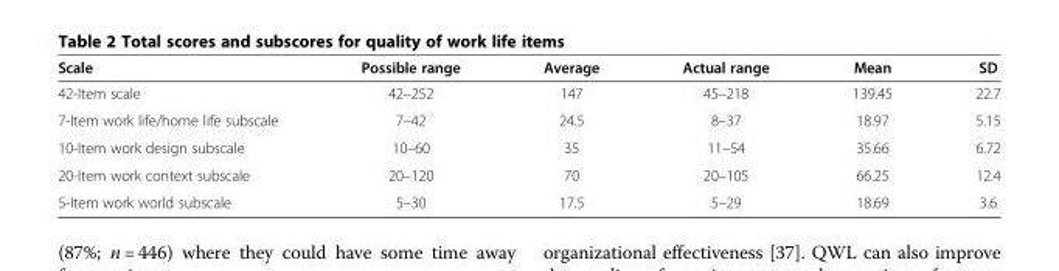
<table><thead><tr><td>Scale</td><td>Possible range</td><td>Average</td><td>Actual range</td><td>Mean</td><td>SD</td></tr></thead><tbody><tr><td>42-Item scale</td><td>42–252</td><td>147</td><td>45–218</td><td>139.45</td><td>22.7</td></tr><tr><td>7-Item work life/home life subscale</td><td>7–42</td><td>24.5</td><td>8–37</td><td>18.97</td><td>5.15</td></tr><tr><td>10-Item work design subscale</td><td>10–60</td><td>35</td><td>11–54</td><td>35.66</td><td>6.72</td></tr><tr><td>20-Item work context subscale</td><td>20–120</td><td>70</td><td>20–105</td><td>66.25</td><td>12.4</td></tr><tr><td>5-Item work world subscale</td><td>5–30</td><td>17.5</td><td>5–29</td><td>18.69</td><td>3.6</td></tr></tbody></table>